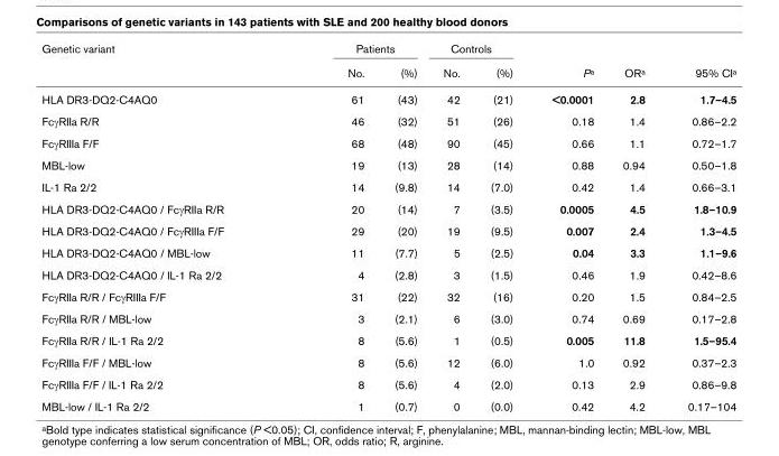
<table><thead><tr><td rowspan="2">Genetic variant</td><td colspan="2">Patients</td><td colspan="2">Controls</td><td rowspan="2">Pa</td><td rowspan="2">ORa</td><td rowspan="2">95% CIa</td></tr><tr><td>No.</td><td>(%)</td><td>No.</td><td>(%)</td></tr></thead><tbody><tr><td>HLA DR3-DQ2-C4AQ0</td><td>61</td><td>(43)</td><td>42</td><td>(21)</td><td>&lt;0.0001</td><td>2.8</td><td>1.7–4.5</td></tr><tr><td>FcγRIIa R/R</td><td>46</td><td>(32)</td><td>51</td><td>(26)</td><td>0.18</td><td>1.4</td><td>0.86–2.2</td></tr><tr><td>FcγRIIIa F/F</td><td>68</td><td>(48)</td><td>90</td><td>(45)</td><td>0.66</td><td>1.1</td><td>0.72–1.7</td></tr><tr><td>MBL-low</td><td>19</td><td>(13)</td><td>28</td><td>(14)</td><td>0.88</td><td>0.94</td><td>0.50–1.8</td></tr><tr><td>IL-1 Ra 2/2</td><td>14</td><td>(9.8)</td><td>14</td><td>(7.0)</td><td>0.42</td><td>1.4</td><td>0.66–3.1</td></tr><tr><td>HLA DR3-DQ2-C4AQ0 / FcγRIIa R/R</td><td>20</td><td>(14)</td><td>7</td><td>(3.5)</td><td>0.0005</td><td>4.5</td><td>1.8–10.9</td></tr><tr><td>HLA DR3-DQ2-C4AQ0 / FcγRIIIa F/F</td><td>29</td><td>(20)</td><td>19</td><td>(9.5)</td><td>0.007</td><td>2.4</td><td>1.3–4.5</td></tr><tr><td>HLA DR3-DQ2-C4AQ0 / MBL-low</td><td>11</td><td>(7.7)</td><td>5</td><td>(2.5)</td><td>0.04</td><td>3.3</td><td>1.1–9.6</td></tr><tr><td>HLA DR3-DQ2-C4AQ0 / IL-1 Ra 2/2</td><td>4</td><td>(2.8)</td><td>3</td><td>(1.5)</td><td>0.46</td><td>1.9</td><td>0.42–8.6</td></tr><tr><td>FcγRIIa R/R / FcγRIIIa F/F</td><td>31</td><td>(22)</td><td>32</td><td>(16)</td><td>0.20</td><td>1.5</td><td>0.84–2.5</td></tr><tr><td>FcγRIIa R/R / MBL-low</td><td>3</td><td>(2.1)</td><td>6</td><td>(3.0)</td><td>0.74</td><td>0.69</td><td>0.17–2.8</td></tr><tr><td>FcγRIIa R/R / IL-1 Ra 2/2</td><td>8</td><td>(5.6)</td><td>1</td><td>(0.5)</td><td>0.005</td><td>11.8</td><td>1.5–95.4</td></tr><tr><td>FcγRIIIa F/F / MBL-low</td><td>8</td><td>(5.6)</td><td>12</td><td>(6.0)</td><td>1.0</td><td>0.92</td><td>0.37–2.3</td></tr><tr><td>FcγRIIIa F/F / IL-1 Ra 2/2</td><td>8</td><td>(5.6)</td><td>4</td><td>(2.0)</td><td>0.13</td><td>2.9</td><td>0.86–9.8</td></tr><tr><td>MBL-low / IL-1 Ra 2/2</td><td>1</td><td>(0.7)</td><td>0</td><td>(0.0)</td><td>0.42</td><td>4.2</td><td>0.17–104</td></tr></tbody></table>